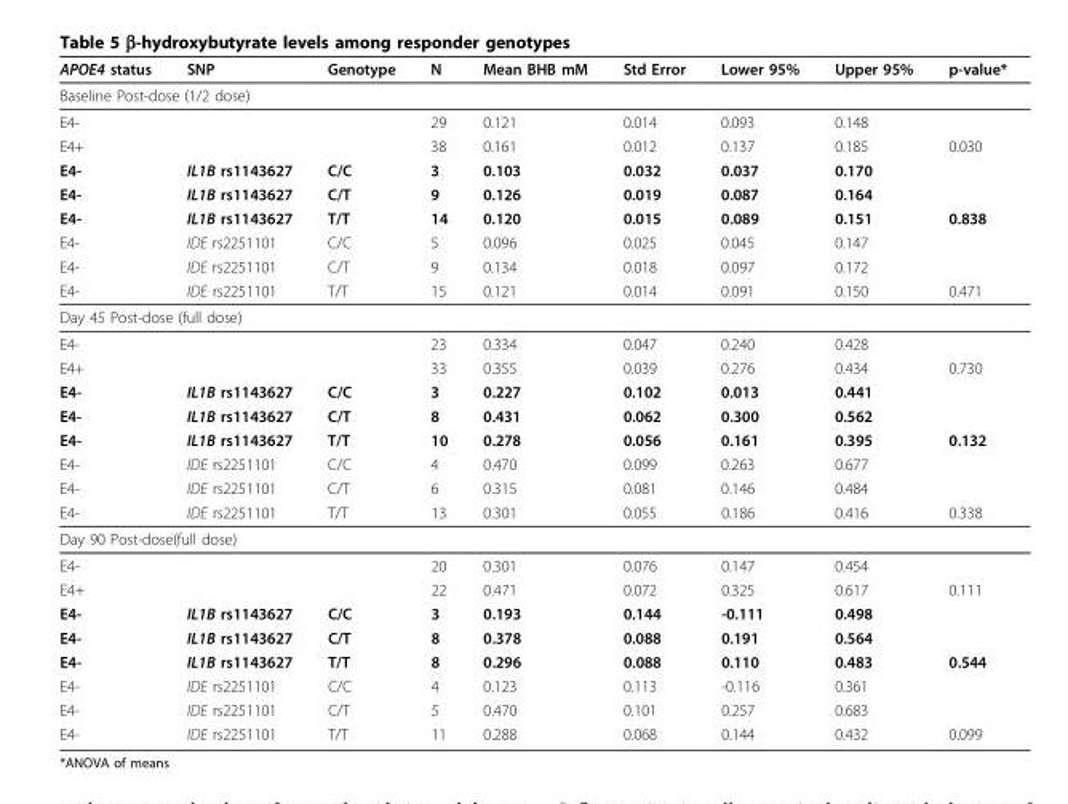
<table><thead><tr><td>APOE4 status</td><td>SNP</td><td>Genotype</td><td>N</td><td>Mean BHB mM</td><td>Std Error</td><td>Lower 95%</td><td>Upper 95%</td><td>p-value*</td></tr></thead><tbody><tr><td colspan="9">Baseline Post-dose (1/2 dose)</td></tr><tr><td>E4-</td><td></td><td></td><td>29</td><td>0.121</td><td>0.014</td><td>0.093</td><td>0.148</td><td></td></tr><tr><td>E4+</td><td></td><td></td><td>38</td><td>0.161</td><td>0.012</td><td>0.137</td><td>0.185</td><td>0.030</td></tr><tr><td>E4-</td><td>IL1B rs1143627</td><td>C/C</td><td>3</td><td>0.103</td><td>0.032</td><td>0.037</td><td>0.170</td><td></td></tr><tr><td>E4-</td><td>IL1B rs1143627</td><td>C/T</td><td>9</td><td>0.126</td><td>0.019</td><td>0.087</td><td>0.164</td><td></td></tr><tr><td>E4-</td><td>IL1B rs1143627</td><td>T/T</td><td>14</td><td>0.120</td><td>0.015</td><td>0.089</td><td>0.151</td><td>0.838</td></tr><tr><td>E4-</td><td>IDE rs2251101</td><td>C/C</td><td>5</td><td>0.096</td><td>0.025</td><td>0.045</td><td>0.147</td><td></td></tr><tr><td>E4-</td><td>IDE rs2251101</td><td>C/T</td><td>9</td><td>0.134</td><td>0.018</td><td>0.097</td><td>0.172</td><td></td></tr><tr><td>E4-</td><td>IDE rs2251101</td><td>T/T</td><td>15</td><td>0.121</td><td>0.014</td><td>0.091</td><td>0.150</td><td>0.471</td></tr><tr><td colspan="9">Day 45 Post-dose (full dose)</td></tr><tr><td>E4-</td><td></td><td></td><td>23</td><td>0.334</td><td>0.047</td><td>0.240</td><td>0.428</td><td></td></tr><tr><td>E4+</td><td></td><td></td><td>33</td><td>0.355</td><td>0.039</td><td>0.276</td><td>0.434</td><td>0.730</td></tr><tr><td>E4-</td><td>IL1B rs1143627</td><td>C/C</td><td>3</td><td>0.227</td><td>0.102</td><td>0.013</td><td>0.441</td><td></td></tr><tr><td>E4-</td><td>IL1B rs1143627</td><td>C/T</td><td>8</td><td>0.431</td><td>0.062</td><td>0.300</td><td>0.562</td><td></td></tr><tr><td>E4-</td><td>IL1B rs1143627</td><td>T/T</td><td>10</td><td>0.278</td><td>0.056</td><td>0.161</td><td>0.395</td><td>0.132</td></tr><tr><td>E4-</td><td>IDE rs2251101</td><td>C/C</td><td>4</td><td>0.470</td><td>0.099</td><td>0.263</td><td>0.677</td><td></td></tr><tr><td>E4-</td><td>IDE rs2251101</td><td>C/T</td><td>6</td><td>0.315</td><td>0.081</td><td>0.146</td><td>0.484</td><td></td></tr><tr><td>E4-</td><td>IDE rs2251101</td><td>T/T</td><td>13</td><td>0.301</td><td>0.055</td><td>0.186</td><td>0.416</td><td>0.338</td></tr><tr><td colspan="9">Day 90 Post-dose(full dose)</td></tr><tr><td>E4-</td><td></td><td></td><td>20</td><td>0.301</td><td>0.076</td><td>0.147</td><td>0.454</td><td></td></tr><tr><td>E4+</td><td></td><td></td><td>22</td><td>0.471</td><td>0.072</td><td>0.325</td><td>0.617</td><td>0.111</td></tr><tr><td>E4-</td><td>IL1B rs1143627</td><td>C/C</td><td>3</td><td>0.193</td><td>0.144</td><td>-0.111</td><td>0.498</td><td></td></tr><tr><td>E4-</td><td>IL1B rs1143627</td><td>C/T</td><td>8</td><td>0.378</td><td>0.088</td><td>0.191</td><td>0.564</td><td></td></tr><tr><td>E4-</td><td>IL1B rs1143627</td><td>T/T</td><td>8</td><td>0.296</td><td>0.088</td><td>0.110</td><td>0.483</td><td>0.544</td></tr><tr><td>E4-</td><td>IDE rs2251101</td><td>C/C</td><td>4</td><td>0.123</td><td>0.113</td><td>-0.116</td><td>0.361</td><td></td></tr><tr><td>E4-</td><td>IDE rs2251101</td><td>C/T</td><td>5</td><td>0.470</td><td>0.101</td><td>0.257</td><td>0.683</td><td></td></tr><tr><td>E4-</td><td>IDE rs2251101</td><td>T/T</td><td>11</td><td>0.288</td><td>0.068</td><td>0.144</td><td>0.432</td><td>0.099</td></tr></tbody></table>